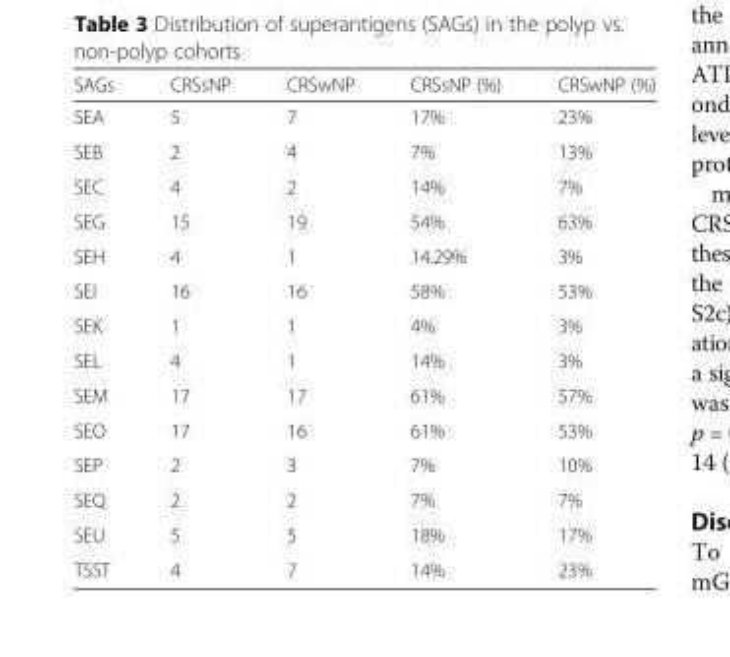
<table><thead><tr><td>SAGs</td><td>CRSsNP</td><td>CRSwNP</td><td>CRSsNP (%)</td><td>CRSwNP (%)</td></tr></thead><tbody><tr><td>SEA</td><td>5</td><td>7</td><td>17%</td><td>23%</td></tr><tr><td>SEB</td><td>2</td><td>4</td><td>7%</td><td>13%</td></tr><tr><td>SEC</td><td>4</td><td>2</td><td>14%</td><td>7%</td></tr><tr><td>SEG</td><td>15</td><td>19</td><td>54%</td><td>63%</td></tr><tr><td>SEH</td><td>4</td><td>1</td><td>14.29%</td><td>3%</td></tr><tr><td>SEI</td><td>16</td><td>16</td><td>58%</td><td>53%</td></tr><tr><td>SEK</td><td>1</td><td>1</td><td>4%</td><td>3%</td></tr><tr><td>SEL</td><td>4</td><td>1</td><td>14%</td><td>3%</td></tr><tr><td>SEM</td><td>17</td><td>17</td><td>61%</td><td>57%</td></tr><tr><td>SEO</td><td>17</td><td>16</td><td>61%</td><td>53%</td></tr><tr><td>SEP</td><td>2</td><td>3</td><td>7%</td><td>10%</td></tr><tr><td>SEQ</td><td>2</td><td>2</td><td>7%</td><td>7%</td></tr><tr><td>SEU</td><td>5</td><td>5</td><td>18%</td><td>17%</td></tr><tr><td>TSST</td><td>4</td><td>7</td><td>14%</td><td>23%</td></tr></tbody></table>